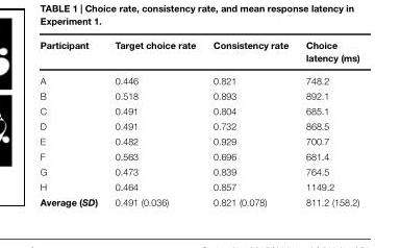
<table><thead><tr><td>Participant</td><td>Target choice rate</td><td>Consistency rate</td><td>Choice latency (ms)</td></tr></thead><tbody><tr><td>A</td><td>0.446</td><td>0.821</td><td>748.2</td></tr><tr><td>B</td><td>0.518</td><td>0.893</td><td>892.1</td></tr><tr><td>C</td><td>0.491</td><td>0.804</td><td>685.1</td></tr><tr><td>D</td><td>0.491</td><td>0.732</td><td>868.5</td></tr><tr><td>E</td><td>0.482</td><td>0.929</td><td>700.7</td></tr><tr><td>F</td><td>0.563</td><td>0.696</td><td>681.4</td></tr><tr><td>G</td><td>0.473</td><td>0.839</td><td>764.5</td></tr><tr><td>H</td><td>0.464</td><td>0.857</td><td>1149.2</td></tr><tr><td>Average (SD)</td><td>0.491 (0.036)</td><td>0.821 (0.078)</td><td>811.2 (158.2)</td></tr></tbody></table>